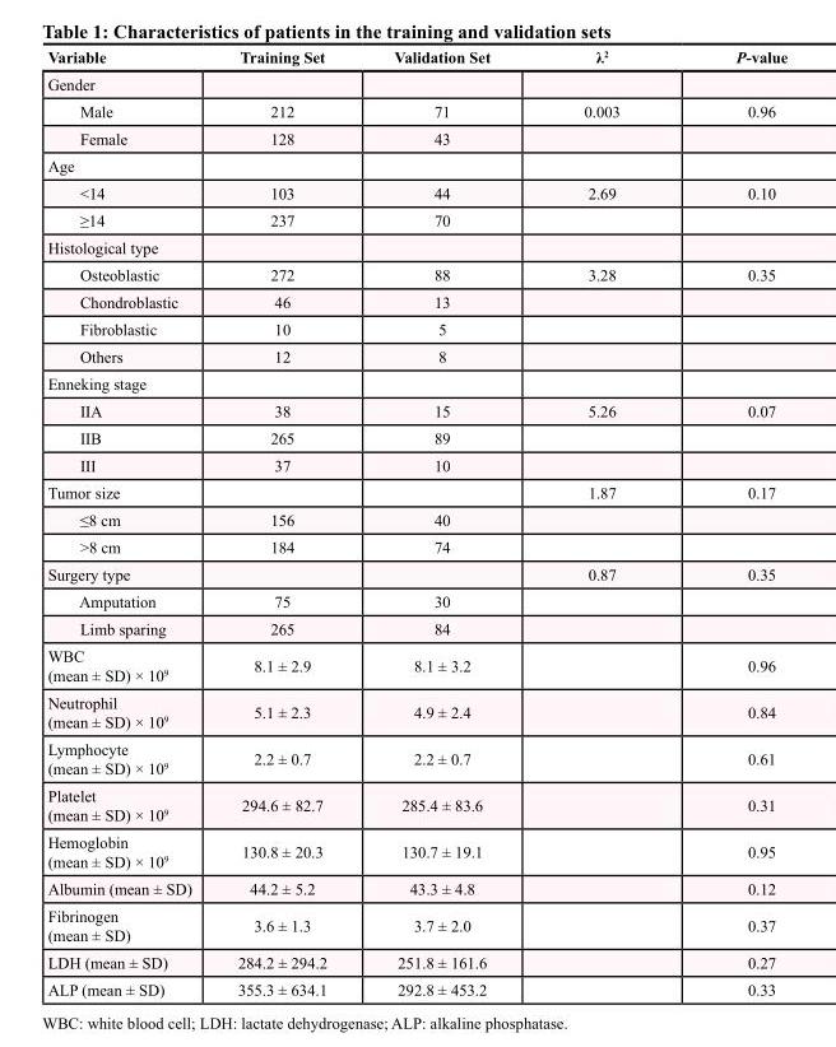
<table><thead><tr><td>Variable</td><td>Training Set</td><td>Validation Set</td><td>λ<sup>2</sup></td><td>P-value</td></tr></thead><tbody><tr><td colspan="5">Gender</td></tr><tr><td>Male</td><td>212</td><td>71</td><td>0.003</td><td>0.96</td></tr><tr><td>Female</td><td>128</td><td>43</td><td></td><td></td></tr><tr><td colspan="5">Age</td></tr><tr><td>&lt;14</td><td>103</td><td>44</td><td>2.69</td><td>0.10</td></tr><tr><td>≥14</td><td>237</td><td>70</td><td></td><td></td></tr><tr><td colspan="5">Histological type</td></tr><tr><td>Osteoblastic</td><td>272</td><td>88</td><td>3.28</td><td>0.35</td></tr><tr><td>Chondroblastic</td><td>46</td><td>13</td><td></td><td></td></tr><tr><td>Fibroblastic</td><td>10</td><td>5</td><td></td><td></td></tr><tr><td>Others</td><td>12</td><td>8</td><td></td><td></td></tr><tr><td colspan="5">Enneking stage</td></tr><tr><td>IIA</td><td>38</td><td>15</td><td>5.26</td><td>0.07</td></tr><tr><td>IIB</td><td>265</td><td>89</td><td></td><td></td></tr><tr><td>III</td><td>37</td><td>10</td><td></td><td></td></tr><tr><td>Tumor size</td><td></td><td></td><td>1.87</td><td>0.17</td></tr><tr><td>≤8 cm</td><td>156</td><td>40</td><td></td><td></td></tr><tr><td>&gt;8 cm</td><td>184</td><td>74</td><td></td><td></td></tr><tr><td>Surgery type</td><td></td><td></td><td>0.87</td><td>0.35</td></tr><tr><td>Amputation</td><td>75</td><td>30</td><td></td><td></td></tr><tr><td>Limb sparing</td><td>265</td><td>84</td><td></td><td></td></tr><tr><td>WBC (mean ± SD) × 10<sup>9</sup></td><td>8.1 ± 2.9</td><td>8.1 ± 3.2</td><td></td><td>0.96</td></tr><tr><td>Neutrophil (mean ± SD) × 10<sup>9</sup></td><td>5.1 ± 2.3</td><td>4.9 ± 2.4</td><td></td><td>0.84</td></tr><tr><td>Lymphocyte (mean ± SD) × 10<sup>9</sup></td><td>2.2 ± 0.7</td><td>2.2 ± 0.7</td><td></td><td>0.61</td></tr><tr><td>Platelet (mean ± SD) × 10<sup>9</sup></td><td>294.6 ± 82.7</td><td>285.4 ± 83.6</td><td></td><td>0.31</td></tr><tr><td>Hemoglobin (mean ± SD) × 10<sup>9</sup></td><td>130.8 ± 20.3</td><td>130.7 ± 19.1</td><td></td><td>0.95</td></tr><tr><td>Albumin (mean ± SD)</td><td>44.2 ± 5.2</td><td>43.3 ± 4.8</td><td></td><td>0.12</td></tr><tr><td>Fibrinogen (mean ± SD)</td><td>3.6 ± 1.3</td><td>3.7 ± 2.0</td><td></td><td>0.37</td></tr><tr><td>LDH (mean ± SD)</td><td>284.2 ± 294.2</td><td>251.8 ± 161.6</td><td></td><td>0.27</td></tr><tr><td>ALP (mean ± SD)</td><td>355.3 ± 634.1</td><td>292.8 ± 453.2</td><td></td><td>0.33</td></tr></tbody></table>